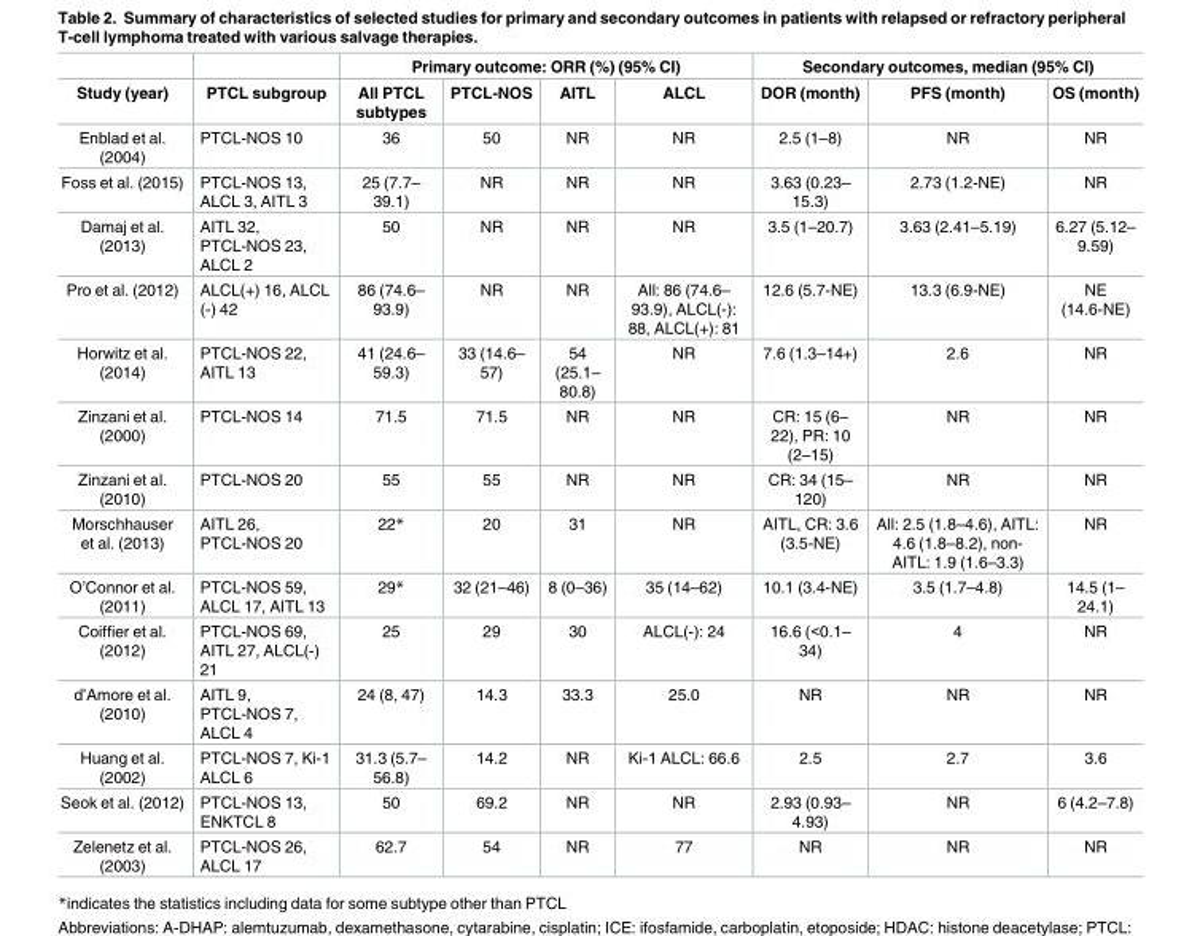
<table><thead><tr><td rowspan="2">Study (year)</td><td rowspan="2">PTCL subgroup</td><td colspan="4">Primary outcome: ORR (%) (95% CI)</td><td colspan="3">Secondary outcomes, median (95% CI)</td></tr><tr><td>All PTCL subtypes</td><td>PTCL-NOS</td><td>AITL</td><td>ALCL</td><td>DOR (month)</td><td>PFS (month)</td><td>OS (month)</td></tr></thead><tbody><tr><td>Enblad et al. (2004)</td><td>PTCL-NOS 10</td><td>36</td><td>50</td><td>NR</td><td>NR</td><td>2.5 (1–8)</td><td>NR</td><td>NR</td></tr><tr><td>Foss et al. (2015)</td><td>PTCL-NOS 13, ALCL 3, AITL 3</td><td>25 (7.7– 39.1)</td><td>NR</td><td>NR</td><td>NR</td><td>3.63 (0.23– 15.3)</td><td>2.73 (1.2-NE)</td><td>NR</td></tr><tr><td>Damaj et al. (2013)</td><td>AITL 32, PTCL-NOS 23, ALCL 2</td><td>50</td><td>NR</td><td>NR</td><td>NR</td><td>3.5 (1–20.7)</td><td>3.63 (2.41–5.19)</td><td>6.27 (5.12– 9.59)</td></tr><tr><td>Pro et al. (2012)</td><td>ALCL(+) 16, ALCL (-) 42</td><td>86 (74.6– 93.9)</td><td>NR</td><td>NR</td><td>All: 86 (74.6– 93.9), ALCL(-): 88, ALCL(+): 81</td><td>12.6 (5.7-NE)</td><td>13.3 (6.9-NE)</td><td>NE (14.6-NE)</td></tr><tr><td>Horwitz et al. (2014)</td><td>PTCL-NOS 22, AITL 13</td><td>41 (24.6– 59.3)</td><td>33 (14.6– 57)</td><td>54 (25.1– 80.8)</td><td>NR</td><td>7.6 (1.3–14+)</td><td>2.6</td><td>NR</td></tr><tr><td>Zinzani et al. (2000)</td><td>PTCL-NOS 14</td><td>71.5</td><td>71.5</td><td>NR</td><td>NR</td><td>CR: 15 (6– 22), PR: 10 (2–15)</td><td>NR</td><td>NR</td></tr><tr><td>Zinzani et al. (2010)</td><td>PTCL-NOS 20</td><td>55</td><td>55</td><td>NR</td><td>NR</td><td>CR: 34 (15– 120)</td><td>NR</td><td>NR</td></tr><tr><td>Morschhauser et al. (2013)</td><td>AITL 26, PTCL-NOS 20</td><td>22*</td><td>20</td><td>31</td><td>NR</td><td>AITL, CR: 3.6 (3.5-NE)</td><td>All: 2.5 (1.8–4.6), AITL: 4.6 (1.8–8.2), non- AITL: 1.9 (1.6–3.3)</td><td>NR</td></tr><tr><td>O’Connor et al. (2011)</td><td>PTCL-NOS 59, ALCL 17, AITL 13</td><td>29*</td><td>32 (21–46)</td><td>8 (0–36)</td><td>35 (14–62)</td><td>10.1 (3.4-NE)</td><td>3.5 (1.7–4.8)</td><td>14.5 (1– 24.1)</td></tr><tr><td>Coiffier et al. (2012)</td><td>PTCL-NOS 69, AITL 27, ALCL(-) 21</td><td>25</td><td>29</td><td>30</td><td>ALCL(-): 24</td><td>16.6 (&lt;0.1– 34)</td><td>4</td><td>NR</td></tr><tr><td>d’Amore et al. (2010)</td><td>AITL 9, PTCL-NOS 7, ALCL 4</td><td>24 (8, 47)</td><td>14.3</td><td>33.3</td><td>25.0</td><td>NR</td><td>NR</td><td>NR</td></tr><tr><td>Huang et al. (2002)</td><td>PTCL-NOS 7, Ki-1 ALCL 6</td><td>31.3 (5.7– 56.8)</td><td>14.2</td><td>NR</td><td>Ki-1 ALCL: 66.6</td><td>2.5</td><td>2.7</td><td>3.6</td></tr><tr><td>Seok et al. (2012)</td><td>PTCL-NOS 13, ENKTCL 8</td><td>50</td><td>69.2</td><td>NR</td><td>NR</td><td>2.93 (0.93– 4.93)</td><td>NR</td><td>6 (4.2–7.8)</td></tr><tr><td>Zelenetz et al. (2003)</td><td>PTCL-NOS 26, ALCL 17</td><td>62.7</td><td>54</td><td>NR</td><td>77</td><td>NR</td><td>NR</td><td>NR</td></tr></tbody></table>